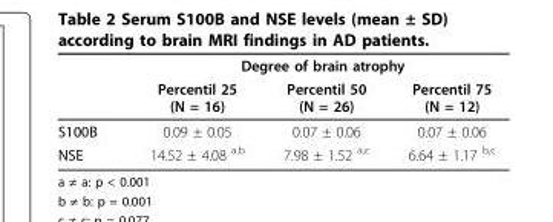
<table><thead><tr><td rowspan="2"></td><td colspan="3">Degree of brain atrophy</td></tr><tr><td>Percentil 25 (N = 16)</td><td>Percentil 50 (N = 26)</td><td>Percentil 75 (N = 12)</td></tr></thead><tbody><tr><td>S100B</td><td>0.09 ± 0.05</td><td>0.07 ± 0.06</td><td>0.07 ± 0.06</td></tr><tr><td>NSE</td><td>14.52 ± 4.08 <sup>a,b</sup></td><td>7.98 ± 1.52 <sup>a,c</sup></td><td>6.64 ± 1.17 <sup>b,c</sup></td></tr></tbody></table>